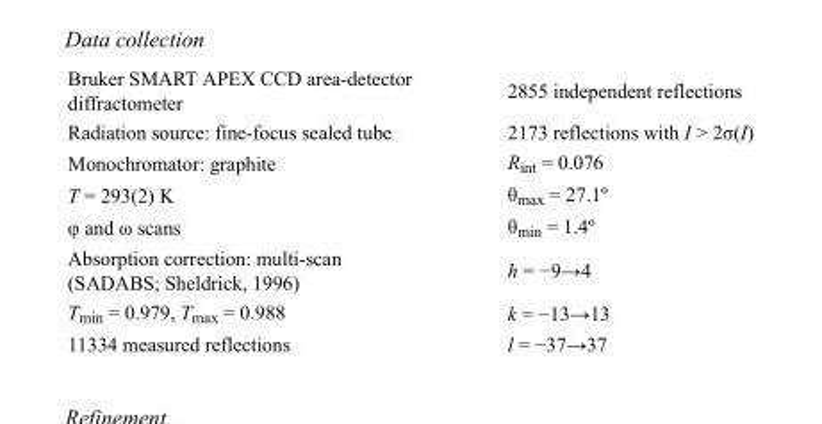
<table><tbody><tr><td>Bruker SMART APEX CCD area-detector diffractometer</td><td>2855 independent reflections</td></tr><tr><td>Radiation source: fine-focus sealed tube</td><td>2173 reflections with I &gt; 2σ(I)</td></tr><tr><td>Monochromator: graphite</td><td>R<sub>int</sub> = 0.076</td></tr><tr><td>T = 293(2) K</td><td>θ<sub>max</sub> = 27.1º</td></tr><tr><td>φ and ω scans</td><td>θ<sub>min</sub> = 1.4º</td></tr><tr><td>Absorption correction: multi-scan (SADABS; Sheldrick, 1996)</td><td>h = −9→4</td></tr><tr><td>T<sub>min</sub> = 0.979, T<sub>max</sub> = 0.988</td><td>k = −13→13</td></tr><tr><td>11334 measured reflections</td><td>l = −37→37</td></tr></tbody></table>